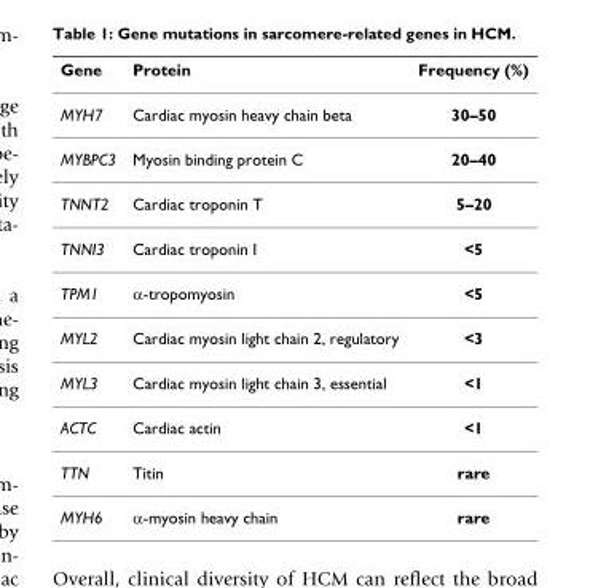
<table><thead><tr><td>Gene</td><td>Protein</td><td>Frequency (%)</td></tr></thead><tbody><tr><td>MYH7</td><td>Cardiac myosin heavy chain beta</td><td>30–50</td></tr><tr><td>MYBPC3</td><td>Myosin binding protein C</td><td>20–40</td></tr><tr><td>TNNT2</td><td>Cardiac troponin T</td><td>5–20</td></tr><tr><td>TNNI3</td><td>Cardiac troponin I</td><td>&lt;5</td></tr><tr><td>TPM1</td><td>α-tropomyosin</td><td>&lt;5</td></tr><tr><td>MYL2</td><td>Cardiac myosin light chain 2, regulatory</td><td>&lt;3</td></tr><tr><td>MYL3</td><td>Cardiac myosin light chain 3, essential</td><td>&lt;1</td></tr><tr><td>ACTC</td><td>Cardiac actin</td><td>&lt;1</td></tr><tr><td>TTN</td><td>Titin</td><td>rare</td></tr><tr><td>MYH6</td><td>α-myosin heavy chain</td><td>rare</td></tr></tbody></table>